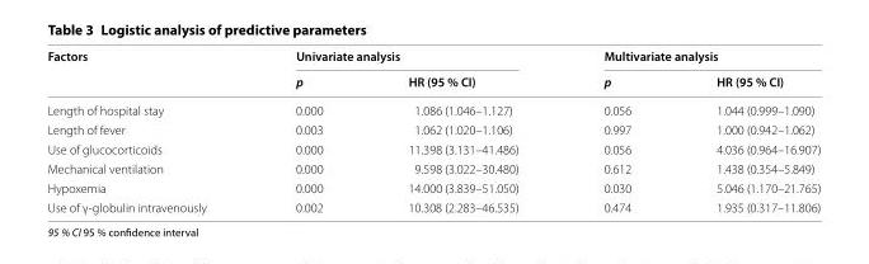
<table><thead><tr><td rowspan="2">Factors</td><td colspan="2">Univariate analysis</td><td colspan="2">Multivariate analysis</td></tr><tr><td>p</td><td>HR (95 % CI)</td><td>p</td><td>HR (95 % CI)</td></tr></thead><tbody><tr><td>Length of hospital stay</td><td>0.000</td><td>1.086 (1.046–1.127)</td><td>0.056</td><td>1.044 (0.999–1.090)</td></tr><tr><td>Length of fever</td><td>0.003</td><td>1.062 (1.020–1.106)</td><td>0.997</td><td>1.000 (0.942–1.062)</td></tr><tr><td>Use of glucocorticoids</td><td>0.000</td><td>11.398 (3.131–41.486)</td><td>0.056</td><td>4.036 (0.964–16.907)</td></tr><tr><td>Mechanical ventilation</td><td>0.000</td><td>9.598 (3.022–30.480)</td><td>0.612</td><td>1.438 (0.354–5.849)</td></tr><tr><td>Hypoxemia</td><td>0.000</td><td>14.000 (3.839–51.050)</td><td>0.030</td><td>5.046 (1.170–21.765)</td></tr><tr><td>Use of γ‑globulin intravenously</td><td>0.002</td><td>10.308 (2.283–46.535)</td><td>0.474</td><td>1.935 (0.317–11.806)</td></tr></tbody></table>